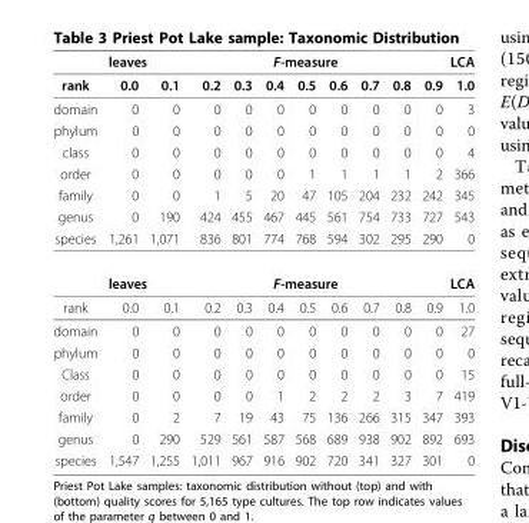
<table><thead><tr><td rowspan="2">rank</td><td colspan="4">leaves</td><td colspan="3">F-measure</td><td colspan="4">LCA</td></tr><tr><td>0.0</td><td>0.1</td><td>0.2</td><td>0.3</td><td>0.4</td><td>0.5</td><td>0.6</td><td>0.7</td><td>0.8</td><td>0.9</td><td>1.0</td></tr></thead><tbody><tr><td>domain</td><td>0</td><td>0</td><td>0</td><td>0</td><td>0</td><td>0</td><td>0</td><td>0</td><td>0</td><td>0</td><td>3</td></tr><tr><td>phylum</td><td>0</td><td>0</td><td>0</td><td>0</td><td>0</td><td>0</td><td>0</td><td>0</td><td>0</td><td>0</td><td>0</td></tr><tr><td>class</td><td>0</td><td>0</td><td>0</td><td>0</td><td>0</td><td>0</td><td>0</td><td>0</td><td>0</td><td>0</td><td>4</td></tr><tr><td>order</td><td>0</td><td>0</td><td>0</td><td>0</td><td>0</td><td>1</td><td>1</td><td>1</td><td>1</td><td>2</td><td>366</td></tr><tr><td>family</td><td>0</td><td>0</td><td>1</td><td>5</td><td>20</td><td>47</td><td>105</td><td>204</td><td>232</td><td>242</td><td>345</td></tr><tr><td>genus</td><td>0</td><td>190</td><td>424</td><td>455</td><td>467</td><td>445</td><td>561</td><td>754</td><td>733</td><td>727</td><td>543</td></tr><tr><td rowspan="2">species</td><td>1,261</td><td>1,071</td><td>836</td><td>801</td><td>774</td><td>768</td><td>594</td><td>302</td><td>295</td><td>290</td><td>0</td></tr><tr><td colspan="4">leaves</td><td colspan="3">F-measure</td><td colspan="4">LCA</td></tr><tr><td>rank</td><td>0.0</td><td>0.1</td><td>0.2</td><td>0.3</td><td>0.4</td><td>0.5</td><td>0.6</td><td>0.7</td><td>0.8</td><td>0.9</td><td>1.0</td></tr><tr><td>domain</td><td>0</td><td>0</td><td>0</td><td>0</td><td>0</td><td>0</td><td>0</td><td>0</td><td>0</td><td>0</td><td>27</td></tr><tr><td>phylum</td><td>0</td><td>0</td><td>0</td><td>0</td><td>0</td><td>0</td><td>0</td><td>0</td><td>0</td><td>0</td><td>0</td></tr><tr><td>Class</td><td>0</td><td>0</td><td>0</td><td>0</td><td>0</td><td>0</td><td>0</td><td>0</td><td>0</td><td>0</td><td>15</td></tr><tr><td>order</td><td>0</td><td>0</td><td>0</td><td>0</td><td>1</td><td>2</td><td>2</td><td>2</td><td>3</td><td>7</td><td>419</td></tr><tr><td>family</td><td>0</td><td>2</td><td>7</td><td>19</td><td>43</td><td>75</td><td>136</td><td>266</td><td>315</td><td>347</td><td>393</td></tr><tr><td>genus</td><td>0</td><td>290</td><td>529</td><td>561</td><td>587</td><td>568</td><td>689</td><td>938</td><td>902</td><td>892</td><td>693</td></tr><tr><td>species</td><td>1,547</td><td>1,255</td><td>1,011</td><td>967</td><td>916</td><td>902</td><td>720</td><td>341</td><td>327</td><td>301</td><td>0</td></tr></tbody></table>